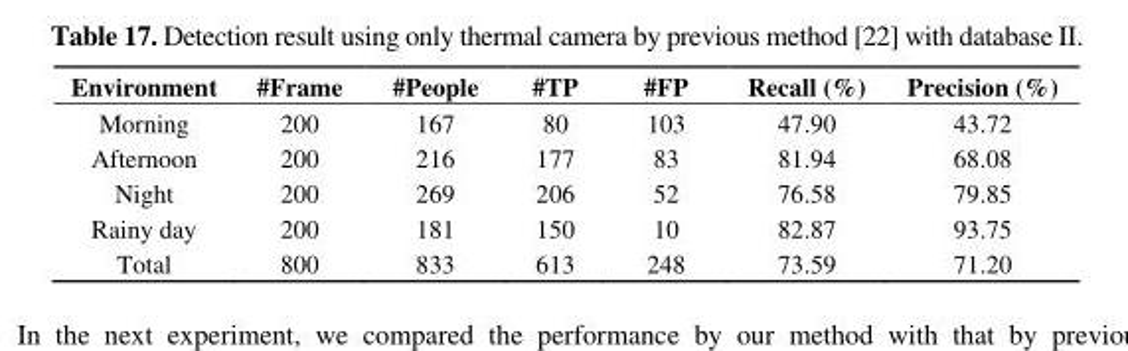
<table><thead><tr><td>Environment</td><td>#Frame</td><td>#People</td><td>#TP</td><td>#FP</td><td>Recall (%)</td><td>Precision (%)</td></tr></thead><tbody><tr><td>Morning</td><td>200</td><td>167</td><td>80</td><td>103</td><td>47.90</td><td>43.72</td></tr><tr><td>Afternoon</td><td>200</td><td>216</td><td>177</td><td>83</td><td>81.94</td><td>68.08</td></tr><tr><td>Night</td><td>200</td><td>269</td><td>206</td><td>52</td><td>76.58</td><td>79.85</td></tr><tr><td>Rainy day</td><td>200</td><td>181</td><td>150</td><td>10</td><td>82.87</td><td>93.75</td></tr><tr><td>Total</td><td>800</td><td>833</td><td>613</td><td>248</td><td>73.59</td><td>71.20</td></tr></tbody></table>